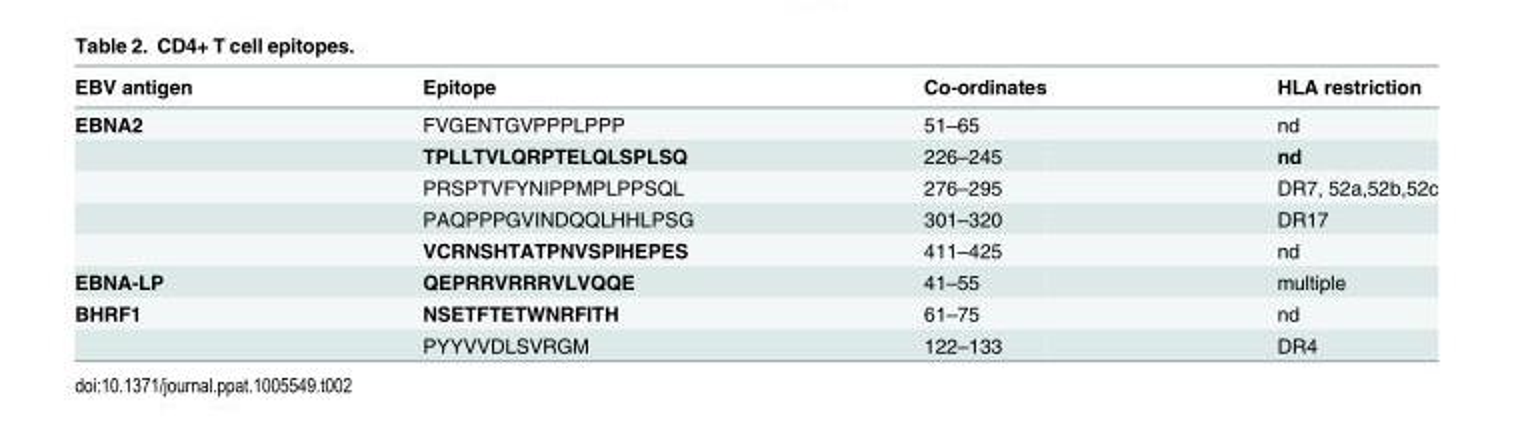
<table><thead><tr><td>EBV antigen</td><td>Epitope</td><td>Co-ordinates</td><td>HLA restriction</td></tr></thead><tbody><tr><td rowspan="5">EBNA2</td><td>FVGENTGVPPPLPPP</td><td>51–65</td><td>nd</td></tr><tr><td>TPLLTVLQRPTELQLSPLSQ</td><td>226–245</td><td>nd</td></tr><tr><td>PRSPTVFYNIPPMPLPPSQL</td><td>276–295</td><td>DR7, 52a,52b,52c</td></tr><tr><td>PAQPPPGVINDQQLHHLPSG</td><td>301–320</td><td>DR17</td></tr><tr><td>VCRNSHTATPNVSPIHEPES</td><td>411–425</td><td>nd</td></tr><tr><td>EBNA-LP</td><td>QEPRRVRRRVLVQQE</td><td>41–55</td><td>multiple</td></tr><tr><td rowspan="2">BHRF1</td><td>NSETFTETWNRFITH</td><td>61–75</td><td>nd</td></tr><tr><td>PYYVVDLSVRGM</td><td>122–133</td><td>DR4</td></tr></tbody></table>